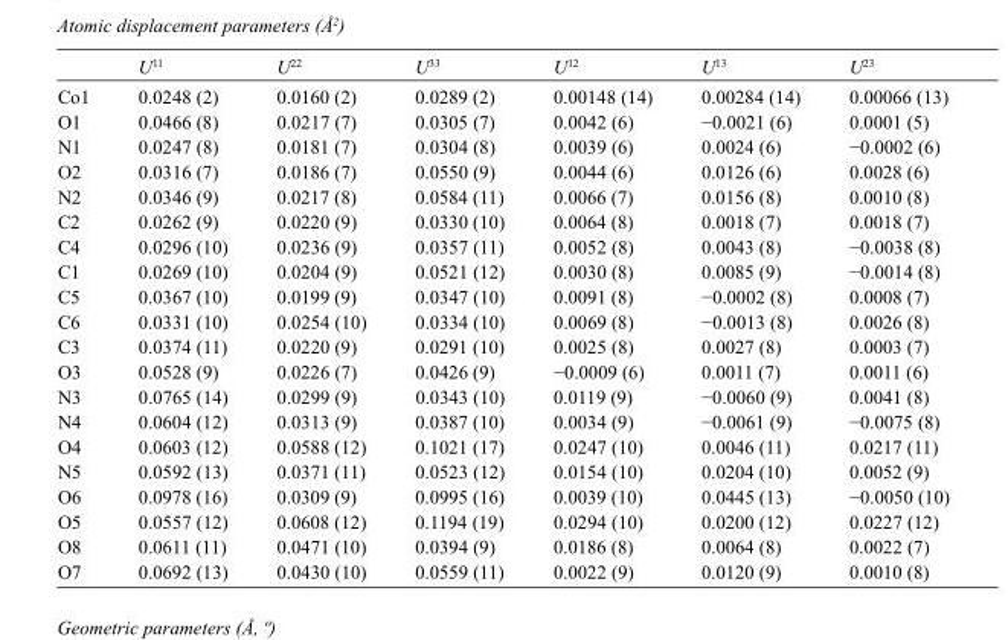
<table><thead><tr><td></td><td>U<sup>11</sup></td><td>U<sup>22</sup></td><td>U<sup>33</sup></td><td>U<sup>12</sup></td><td>U<sup>13</sup></td><td>U<sup>23</sup></td></tr></thead><tbody><tr><td>Co1</td><td>0.0248 (2)</td><td>0.0160 (2)</td><td>0.0289 (2)</td><td>0.00148 (14)</td><td>0.00284 (14)</td><td>0.00066 (13)</td></tr><tr><td>O1</td><td>0.0466 (8)</td><td>0.0217 (7)</td><td>0.0305 (7)</td><td>0.0042 (6)</td><td>−0.0021 (6)</td><td>0.0001 (5)</td></tr><tr><td>N1</td><td>0.0247 (8)</td><td>0.0181 (7)</td><td>0.0304 (8)</td><td>0.0039 (6)</td><td>0.0024 (6)</td><td>−0.0002 (6)</td></tr><tr><td>O2</td><td>0.0316 (7)</td><td>0.0186 (7)</td><td>0.0550 (9)</td><td>0.0044 (6)</td><td>0.0126 (6)</td><td>0.0028 (6)</td></tr><tr><td>N2</td><td>0.0346 (9)</td><td>0.0217 (8)</td><td>0.0584 (11)</td><td>0.0066 (7)</td><td>0.0156 (8)</td><td>0.0010 (8)</td></tr><tr><td>C2</td><td>0.0262 (9)</td><td>0.0220 (9)</td><td>0.0330 (10)</td><td>0.0064 (8)</td><td>0.0018 (7)</td><td>0.0018 (7)</td></tr><tr><td>C4</td><td>0.0296 (10)</td><td>0.0236 (9)</td><td>0.0357 (11)</td><td>0.0052 (8)</td><td>0.0043 (8)</td><td>−0.0038 (8)</td></tr><tr><td>C1</td><td>0.0269 (10)</td><td>0.0204 (9)</td><td>0.0521 (12)</td><td>0.0030 (8)</td><td>0.0085 (9)</td><td>−0.0014 (8)</td></tr><tr><td>C5</td><td>0.0367 (10)</td><td>0.0199 (9)</td><td>0.0347 (10)</td><td>0.0091 (8)</td><td>−0.0002 (8)</td><td>0.0008 (7)</td></tr><tr><td>C6</td><td>0.0331 (10)</td><td>0.0254 (10)</td><td>0.0334 (10)</td><td>0.0069 (8)</td><td>−0.0013 (8)</td><td>0.0026 (8)</td></tr><tr><td>C3</td><td>0.0374 (11)</td><td>0.0220 (9)</td><td>0.0291 (10)</td><td>0.0025 (8)</td><td>0.0027 (8)</td><td>0.0003 (7)</td></tr><tr><td>O3</td><td>0.0528 (9)</td><td>0.0226 (7)</td><td>0.0426 (9)</td><td>−0.0009 (6)</td><td>0.0011 (7)</td><td>0.0011 (6)</td></tr><tr><td>N3</td><td>0.0765 (14)</td><td>0.0299 (9)</td><td>0.0343 (10)</td><td>0.0119 (9)</td><td>−0.0060 (9)</td><td>0.0041 (8)</td></tr><tr><td>N4</td><td>0.0604 (12)</td><td>0.0313 (9)</td><td>0.0387 (10)</td><td>0.0034 (9)</td><td>−0.0061 (9)</td><td>−0.0075 (8)</td></tr><tr><td>O4</td><td>0.0603 (12)</td><td>0.0588 (12)</td><td>0.1021 (17)</td><td>0.0247 (10)</td><td>0.0046 (11)</td><td>0.0217 (11)</td></tr><tr><td>N5</td><td>0.0592 (13)</td><td>0.0371 (11)</td><td>0.0523 (12)</td><td>0.0154 (10)</td><td>0.0204 (10)</td><td>0.0052 (9)</td></tr><tr><td>O6</td><td>0.0978 (16)</td><td>0.0309 (9)</td><td>0.0995 (16)</td><td>0.0039 (10)</td><td>0.0445 (13)</td><td>−0.0050 (10)</td></tr><tr><td>O5</td><td>0.0557 (12)</td><td>0.0608 (12)</td><td>0.1194 (19)</td><td>0.0294 (10)</td><td>0.0200 (12)</td><td>0.0227 (12)</td></tr><tr><td>O8</td><td>0.0611 (11)</td><td>0.0471 (10)</td><td>0.0394 (9)</td><td>0.0186 (8)</td><td>0.0064 (8)</td><td>0.0022 (7)</td></tr><tr><td>O7</td><td>0.0692 (13)</td><td>0.0430 (10)</td><td>0.0559 (11)</td><td>0.0022 (9)</td><td>0.0120 (9)</td><td>0.0010 (8)</td></tr></tbody></table>